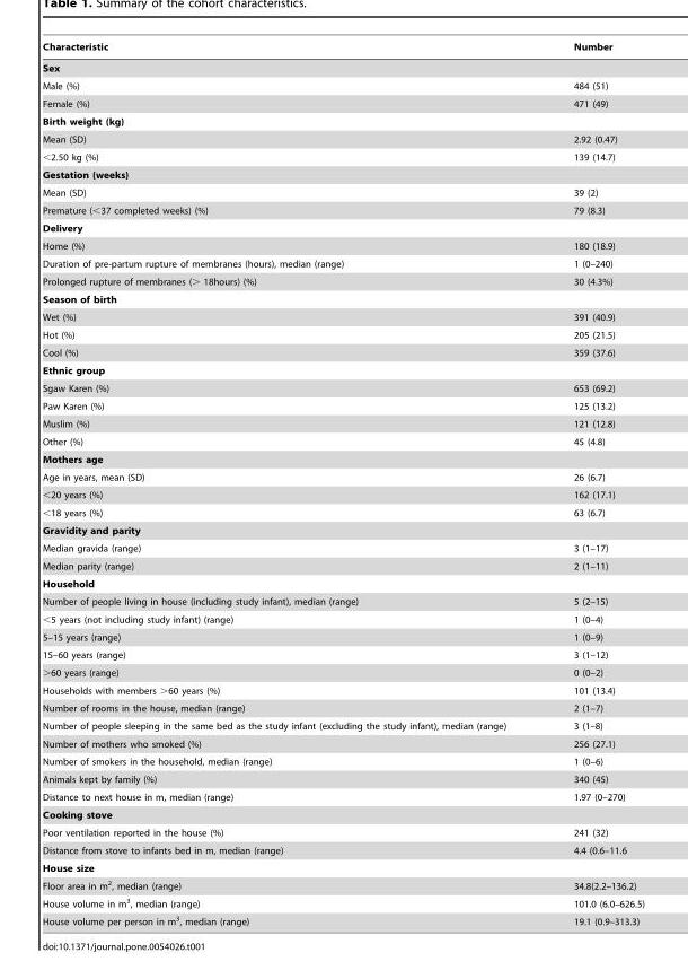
<table><thead><tr><td>Characteristic</td><td>Number</td></tr></thead><tbody><tr><td colspan="2">Sex</td></tr><tr><td>Male (%)</td><td>484 (51)</td></tr><tr><td>Female (%)</td><td>471 (49)</td></tr><tr><td colspan="2">Birth weight (kg)</td></tr><tr><td>Mean (SD)</td><td>2.92 (0.47)</td></tr><tr><td>&lt;2.50 kg (%)</td><td>139 (14.7)</td></tr><tr><td colspan="2">Gestation (weeks)</td></tr><tr><td>Mean (SD)</td><td>39 (2)</td></tr><tr><td>Premature (&lt;37 completed weeks) (%)</td><td>79 (8.3)</td></tr><tr><td colspan="2">Delivery</td></tr><tr><td>Home (%)</td><td>180 (18.9)</td></tr><tr><td>Duration of pre-partum rupture of membranes (hours), median (range)</td><td>1 (0–240)</td></tr><tr><td>Prolonged rupture of membranes (&gt; 18hours) (%)</td><td>30 (4.3%)</td></tr><tr><td colspan="2">Season of birth</td></tr><tr><td>Wet (%)</td><td>391 (40.9)</td></tr><tr><td>Hot (%)</td><td>205 (21.5)</td></tr><tr><td>Cool (%)</td><td>359 (37.6)</td></tr><tr><td colspan="2">Ethnic group</td></tr><tr><td>Sgaw Karen (%)</td><td>653 (69.2)</td></tr><tr><td>Paw Karen (%)</td><td>125 (13.2)</td></tr><tr><td>Muslim (%)</td><td>121 (12.8)</td></tr><tr><td>Other (%)</td><td>45 (4.8)</td></tr><tr><td colspan="2">Mothers age</td></tr><tr><td>Age in years, mean (SD)</td><td>26 (6.7)</td></tr><tr><td>&lt;20 years (%)</td><td>162 (17.1)</td></tr><tr><td>&lt;18 years (%)</td><td>63 (6.7)</td></tr><tr><td colspan="2">Gravidity and parity</td></tr><tr><td>Median gravida (range)</td><td>3 (1–17)</td></tr><tr><td>Median parity (range)</td><td>2 (1–11)</td></tr><tr><td colspan="2">Household</td></tr><tr><td>Number of people living in house (including study infant), median (range)</td><td>5 (2–15)</td></tr><tr><td>&lt;5 years (not including study infant) (range)</td><td>1 (0–4)</td></tr><tr><td>5–15 years (range)</td><td>1 (0–9)</td></tr><tr><td>15–60 years (range)</td><td>3 (1–12)</td></tr><tr><td>&gt;60 years (range)</td><td>0 (0–2)</td></tr><tr><td>Households with members &gt;60 years (%)</td><td>101 (13.4)</td></tr><tr><td>Number of rooms in the house, median (range)</td><td>2 (1–7)</td></tr><tr><td>Number of people sleeping in the same bed as the study infant (excluding the study infant), median (range)</td><td>3 (1–8)</td></tr><tr><td>Number of mothers who smoked (%)</td><td>256 (27.1)</td></tr><tr><td>Number of smokers in the household, median (range)</td><td>1 (0–6)</td></tr><tr><td>Animals kept by family (%)</td><td>340 (45)</td></tr><tr><td>Distance to next house in m, median (range)</td><td>1.97 (0–270)</td></tr><tr><td colspan="2">Cooking stove</td></tr><tr><td>Poor ventilation reported in the house (%)</td><td>241 (32)</td></tr><tr><td>Distance from stove to infants bed in m, median (range)</td><td>4.4 (0.6–11.6</td></tr><tr><td colspan="2">House size</td></tr><tr><td>Floor area in m<sup>2</sup>, median (range)</td><td>34.8(2.2–136.2)</td></tr><tr><td>House volume in m<sup>3</sup>, median (range)</td><td>101.0 (6.0–626.5)</td></tr><tr><td>House volume per person in m<sup>3</sup>, median (range)</td><td>19.1 (0.9–313.3)</td></tr></tbody></table>